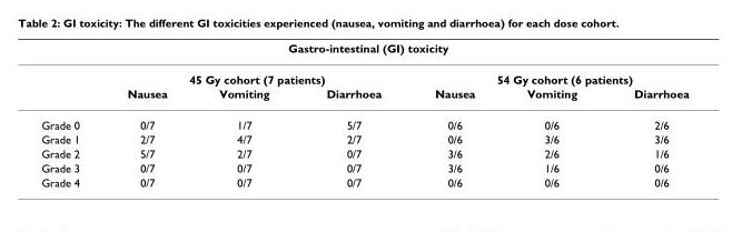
<table><thead><tr><td colspan="7">Gastro-intestinal (GI) toxicity</td></tr><tr><td rowspan="2"></td><td colspan="3">45 Gy cohort (7 patients)</td><td colspan="3">54 Gy cohort (6 patients)</td></tr><tr><td>Nausea</td><td>Vomiting</td><td>Diarrhoea</td><td>Nausea</td><td>Vomiting</td><td>Diarrhoea</td></tr></thead><tbody><tr><td>Grade 0</td><td>0/7</td><td>1/7</td><td>5/7</td><td>0/6</td><td>0/6</td><td>2/6</td></tr><tr><td>Grade 1</td><td>2/7</td><td>4/7</td><td>2/7</td><td>0/6</td><td>3/6</td><td>3/6</td></tr><tr><td>Grade 2</td><td>5/7</td><td>2/7</td><td>0/7</td><td>3/6</td><td>2/6</td><td>1/6</td></tr><tr><td>Grade 3</td><td>0/7</td><td>0/7</td><td>0/7</td><td>3/6</td><td>1/6</td><td>0/6</td></tr><tr><td>Grade 4</td><td>0/7</td><td>0/7</td><td>0/7</td><td>0/6</td><td>0/6</td><td>0/6</td></tr></tbody></table>